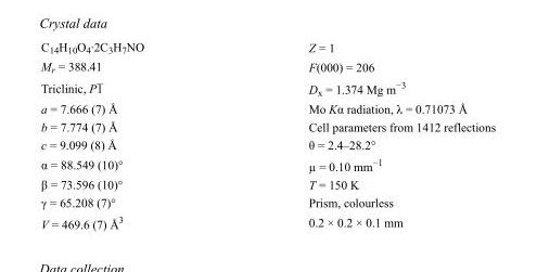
<table><tbody><tr><td>C<sub>14</sub>H<sub>10</sub>O<sub>4</sub>·2C<sub>3</sub>H<sub>7</sub>NO</td><td>Z = 1</td></tr><tr><td>M<sub>r</sub> = 388.41</td><td>F(000) = 206</td></tr><tr><td>Triclinic, P1</td><td>D<sub>x</sub> = 1.374 Mg m<sup>−3</sup></td></tr><tr><td>a = 7.666 (7) Å</td><td>Mo Kα radiation, λ = 0.71073 Å</td></tr><tr><td>b = 7.774 (7) Å</td><td>Cell parameters from 1412 reflections</td></tr><tr><td>c = 9.099 (8) Å</td><td>θ = 2.4–28.2°</td></tr><tr><td>α = 88.549 (10)°</td><td>µ = 0.10 mm<sup>−1</sup></td></tr><tr><td>β = 73.596 (10)°</td><td>T = 150 K</td></tr><tr><td>γ = 65.208 (7)°</td><td>Prism, colourless</td></tr><tr><td>V = 469.6 (7) Å<sup>3</sup></td><td>0.2 × 0.2 × 0.1 mm</td></tr></tbody></table>